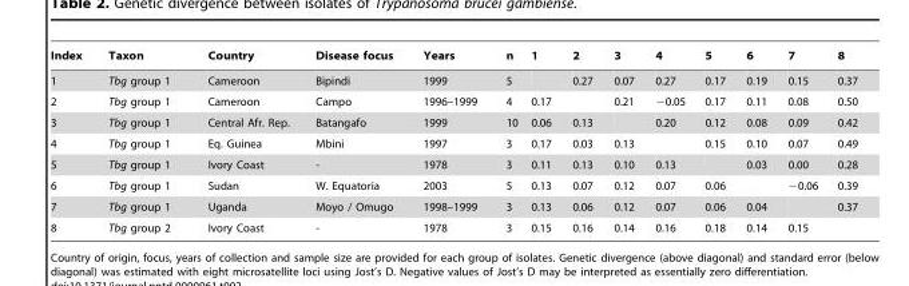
<table><thead><tr><td>Index</td><td>Taxon</td><td>Country</td><td>Disease focus</td><td>Years</td><td>n</td><td>1</td><td>2</td><td>3</td><td>4</td><td>5</td><td>6</td><td>7</td><td>8</td></tr></thead><tbody><tr><td>1</td><td>Tbg group 1</td><td>Cameroon</td><td>Bipindi</td><td>1999</td><td>5</td><td></td><td>0.27</td><td>0.07</td><td>0.27</td><td>0.17</td><td>0.19</td><td>0.15</td><td>0.37</td></tr><tr><td>2</td><td>Tbg group 1</td><td>Cameroon</td><td>Campo</td><td>1996–1999</td><td>4</td><td>0.17</td><td></td><td>0.21</td><td>−0.05</td><td>0.17</td><td>0.11</td><td>0.08</td><td>0.50</td></tr><tr><td>3</td><td>Tbg group 1</td><td>Central Afr. Rep.</td><td>Batangafo</td><td>1999</td><td>10</td><td>0.06</td><td>0.13</td><td></td><td>0.20</td><td>0.12</td><td>0.08</td><td>0.09</td><td>0.42</td></tr><tr><td>4</td><td>Tbg group 1</td><td>Eq. Guinea</td><td>Mbini</td><td>1997</td><td>3</td><td>0.17</td><td>0.03</td><td>0.13</td><td></td><td>0.15</td><td>0.10</td><td>0.07</td><td>0.49</td></tr><tr><td>5</td><td>Tbg group 1</td><td>Ivory Coast</td><td>-</td><td>1978</td><td>3</td><td>0.11</td><td>0.13</td><td>0.10</td><td>0.13</td><td></td><td>0.03</td><td>0.00</td><td>0.28</td></tr><tr><td>6</td><td>Tbg group 1</td><td>Sudan</td><td>W. Equatoria</td><td>2003</td><td>5</td><td>0.13</td><td>0.07</td><td>0.12</td><td>0.07</td><td>0.06</td><td></td><td>−0.06</td><td>0.39</td></tr><tr><td>7</td><td>Tbg group 1</td><td>Uganda</td><td>Moyo / Omugo</td><td>1998–1999</td><td>3</td><td>0.13</td><td>0.06</td><td>0.12</td><td>0.07</td><td>0.06</td><td>0.04</td><td></td><td>0.37</td></tr><tr><td>8</td><td>Tbg group 2</td><td>Ivory Coast</td><td>-</td><td>1978</td><td>3</td><td>0.15</td><td>0.16</td><td>0.14</td><td>0.16</td><td>0.18</td><td>0.14</td><td>0.15</td><td></td></tr></tbody></table>